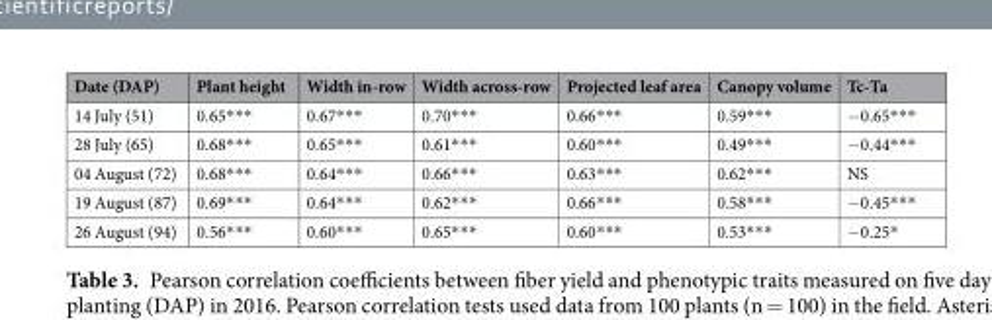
<table><thead><tr><td>Date (DAP)</td><td>Plant height</td><td>Width in-row</td><td>Width across-row</td><td>Projected leaf area</td><td>Canopy volume</td><td>Tc-Ta</td></tr></thead><tbody><tr><td>14 July (51)</td><td>0.65***</td><td>0.67***</td><td>0.70***</td><td>0.66***</td><td>0.59***</td><td>−0.65***</td></tr><tr><td>28 July (65)</td><td>0.68***</td><td>0.65***</td><td>0.61***</td><td>0.60***</td><td>0.49***</td><td>−0.44***</td></tr><tr><td>04 August (72)</td><td>0.68***</td><td>0.64***</td><td>0.66***</td><td>0.63***</td><td>0.62***</td><td>NS</td></tr><tr><td>19 August (87)</td><td>0.69***</td><td>0.64***</td><td>0.62***</td><td>0.66***</td><td>0.58***</td><td>−0.45***</td></tr><tr><td>26 August (94)</td><td>0.56***</td><td>0.60***</td><td>0.65***</td><td>0.60***</td><td>0.53***</td><td>−0.25*</td></tr></tbody></table>